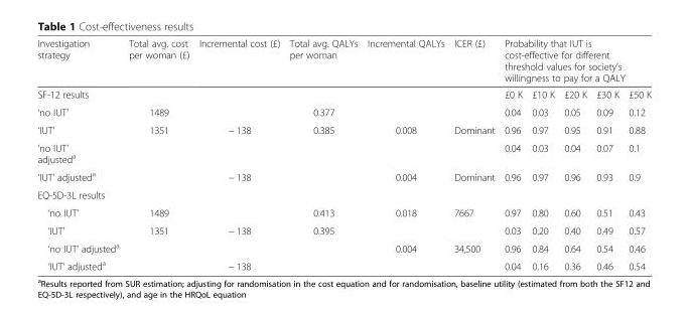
<table><thead><tr><td>Investigation strategy</td><td>Total avg. cost per woman (£)</td><td>Incremental cost (£)</td><td>Total avg. QALYs per woman</td><td>Incremental QALYs</td><td>ICER (£)</td><td colspan="5">Probability that IUT is cost-effective for different threshold values for society’s willingness to pay for a QALY</td></tr><tr><td colspan="6">SF-12 results</td><td>£0 K</td><td>£10 K</td><td>£20 K</td><td>£30 K</td><td>£50 K</td></tr></thead><tbody><tr><td>‘no IUT’</td><td>1489</td><td></td><td>0.377</td><td></td><td></td><td>0.04</td><td>0.03</td><td>0.05</td><td>0.09</td><td>0.12</td></tr><tr><td>‘IUT’</td><td>1351</td><td>− 138</td><td>0.385</td><td>0.008</td><td>Dominant</td><td>0.96</td><td>0.97</td><td>0.95</td><td>0.91</td><td>0.88</td></tr><tr><td>‘no IUT’ adjusted<sup>a</sup></td><td></td><td></td><td></td><td></td><td></td><td>0.04</td><td>0.03</td><td>0.04</td><td>0.07</td><td>0.1</td></tr><tr><td>‘IUT’ adjusted<sup>a</sup></td><td></td><td>− 138</td><td></td><td>0.004</td><td>Dominant</td><td>0.96</td><td>0.97</td><td>0.96</td><td>0.93</td><td>0.9</td></tr><tr><td colspan="11">EQ-5D-3L results</td></tr><tr><td>‘no IUT’</td><td>1489</td><td></td><td>0.413</td><td>0.018</td><td>7667</td><td>0.97</td><td>0.80</td><td>0.60</td><td>0.51</td><td>0.43</td></tr><tr><td>‘IUT’</td><td>1351</td><td>− 138</td><td>0.395</td><td></td><td></td><td>0.03</td><td>0.20</td><td>0.40</td><td>0.49</td><td>0.57</td></tr><tr><td>‘no IUT’ adjusted<sup>a</sup></td><td></td><td></td><td></td><td>0.004</td><td>34,500</td><td>0.96</td><td>0.84</td><td>0.64</td><td>0.54</td><td>0.46</td></tr><tr><td>‘IUT’ adjusted<sup>a</sup></td><td></td><td>− 138</td><td></td><td></td><td></td><td>0.04</td><td>0.16</td><td>0.36</td><td>0.46</td><td>0.54</td></tr></tbody></table>